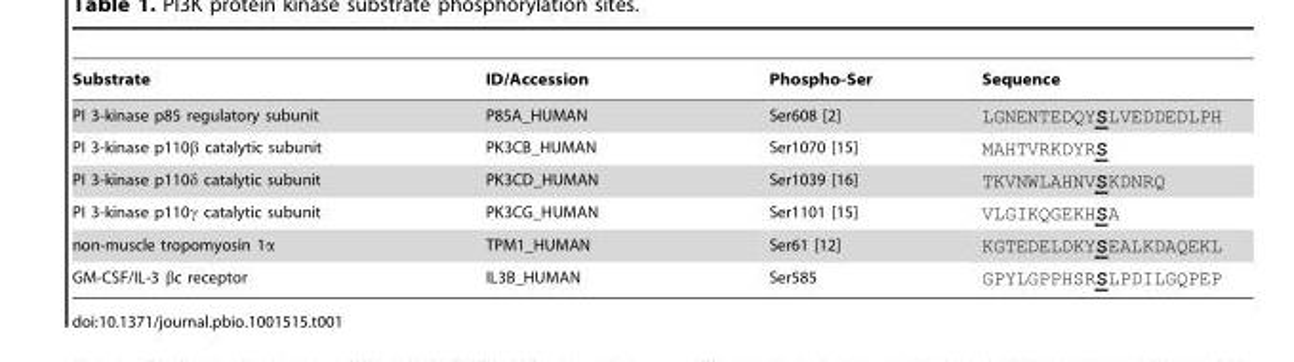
<table><thead><tr><td>Substrate</td><td>ID/Accession</td><td>Phospho-Ser</td><td>Sequence</td></tr></thead><tbody><tr><td>PI 3-kinase p85 regulatory subunit</td><td>P85A_HUMAN</td><td>Ser608 [2]</td><td>LGNENTEDQYSSSLVEDDEDLPH</td></tr><tr><td>PI 3-kinase p110β catalytic subunit</td><td>PK3CB_HUMAN</td><td>Ser1070 [15]</td><td>MAHTVRKDYRSSS</td></tr><tr><td>PI 3-kinase p110δ catalytic subunit</td><td>PK3CD_HUMAN</td><td>Ser1039 [16]</td><td>TKVNWLAHNVSSSKDNRQ</td></tr><tr><td>PI 3-kinase p110γ catalytic subunit</td><td>PK3CG_HUMAN</td><td>Ser1101 [15]</td><td>VLGIKQGEKHSSSA</td></tr><tr><td>non-muscle tropomyosin 1α</td><td>TPM1_HUMAN</td><td>Ser61 [12]</td><td>KGTEDELDKYSSSEALKDAQEKL</td></tr><tr><td>GM-CSF/IL-3 βc receptor</td><td>IL3B_HUMAN</td><td>Ser585</td><td>GPYLGPPHSRSSSLPDILGQPEP</td></tr></tbody></table>